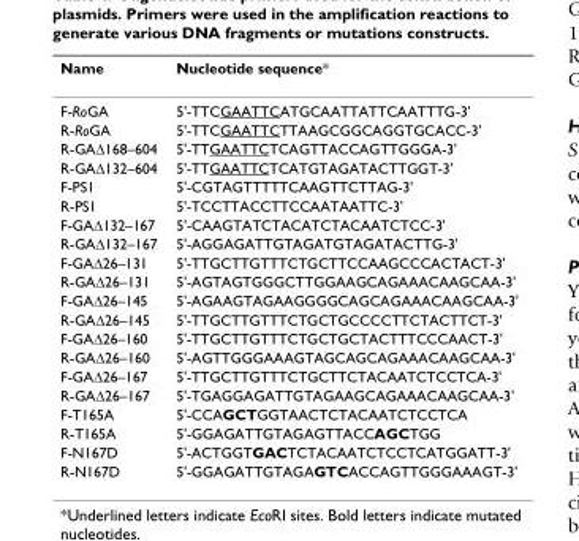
<table><thead><tr><td>Name</td><td>Nucleotide sequence*</td></tr></thead><tbody><tr><td>F-RoGA</td><td>5&#x27;-TTCGAATTCATGCAATTATTCAATTTG-3&#x27;</td></tr><tr><td>R-RoGA</td><td>5&#x27;-TTCGAATTCTTAAGCGGCAGGTGCACC-3&#x27;</td></tr><tr><td>R-GA∆168–604</td><td>5&#x27;-TTGAATTCTCAGTTACCAGTTGGGA-3&#x27;</td></tr><tr><td>R-GA∆132–604</td><td>5&#x27;-TTGAATTCTCATGTAGATACTTGGT-3&#x27;</td></tr><tr><td>F-PS1</td><td>5&#x27;-CGTAGTTTTTCAAGTTCTTAG-3&#x27;</td></tr><tr><td>R-PS1</td><td>5&#x27;-TCCTTACCTTCCAATAATTC-3&#x27;</td></tr><tr><td>F-GA∆132–167</td><td>5&#x27;-CAAGTATCTACATCTACAATCTCC-3&#x27;</td></tr><tr><td>R-GA∆132–167</td><td>5&#x27;-AGGAGATTGTAGATGTAGATACTTG-3&#x27;</td></tr><tr><td>F-GA∆26–131</td><td>5&#x27;-TTGCTTGTTTCTGCTTCCAAGCCCACTACT-3&#x27;</td></tr><tr><td>R-GA∆26–131</td><td>5&#x27;-AGTAGTGGGCTTGGAAGCAGAAACAAGCAA-3&#x27;</td></tr><tr><td>F-GA∆26–145</td><td>5&#x27;-AGAAGTAGAAGGGGCAGCAGAAACAAGCAA-3&#x27;</td></tr><tr><td>R-GA∆26–145</td><td>5&#x27;-TTGCTTGTTTCTGCTGCCCCTTCTACTTCT-3&#x27;</td></tr><tr><td>F-GA∆26–160</td><td>5&#x27;-TTGCTTGTTTCTGCTGCTACTTTCCCAACT-3&#x27;</td></tr><tr><td>R-GA∆26–160</td><td>5&#x27;-AGTTGGGAAAGTAGCAGCAGAAACAAGCAA-3&#x27;</td></tr><tr><td>F-GA∆26–167</td><td>5&#x27;-TTGCTTGTTTCTGCTTCTACAATCTCCTCA-3&#x27;</td></tr><tr><td>R-GA∆26–167</td><td>5&#x27;-TGAGGAGATTGTAGAAGCAGAAACAAGCAA-3&#x27;</td></tr><tr><td>F-T165A</td><td>5&#x27;-CCAGCTGGTAACTCTACAATCTCCTCA</td></tr><tr><td>R-T165A</td><td>5&#x27;-GGAGATTGTAGAGTTACCAGCTGG</td></tr><tr><td>F-N167D</td><td>5&#x27;-ACTGGTGACTCTACAATCTCCTCATGGATT-3&#x27;</td></tr><tr><td>R-N167D</td><td>5&#x27;-GGAGATTGTAGAGTCACCAGTTGGGAAAGT-3&#x27;</td></tr></tbody></table>